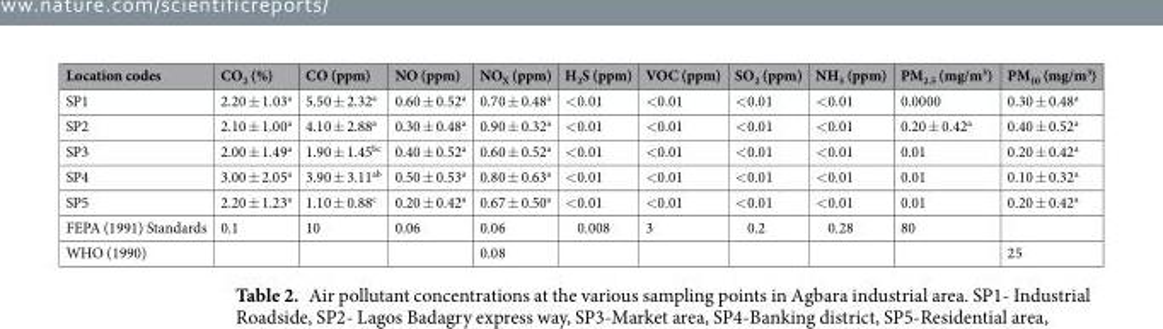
<table><thead><tr><td>Location codes</td><td>CO<sub>2</sub> (%)</td><td>CO (ppm)</td><td>NO (ppm)</td><td>NO<sub>X</sub> (ppm)</td><td>H<sub>2</sub>S (ppm)</td><td>VOC (ppm)</td><td>SO<sub>2</sub> (ppm)</td><td>NH<sub>3</sub> (ppm)</td><td>PM<sub>2.5</sub> (mg/m<sup>3</sup>)</td><td>PM<sub>10</sub> (mg/m<sup>3</sup>)</td></tr></thead><tbody><tr><td>SP1</td><td>2.20 ± 1.03<sup>a</sup></td><td>5.50 ± 2.32<sup>a</sup></td><td>0.60 ± 0.52<sup>a</sup></td><td>0.70 ± 0.48<sup>a</sup></td><td>&lt;0.01</td><td>&lt;0.01</td><td>&lt;0.01</td><td>&lt;0.01</td><td>0.0000</td><td>0.30 ± 0.48<sup>a</sup></td></tr><tr><td>SP2</td><td>2.10 ± 1.00<sup>a</sup></td><td>4.10 ± 2.88<sup>a</sup></td><td>0.30 ± 0.48<sup>a</sup></td><td>0.90 ± 0.32<sup>a</sup></td><td>&lt;0.01</td><td>&lt;0.01</td><td>&lt;0.01</td><td>&lt;0.01</td><td>0.20 ± 0.42<sup>a</sup></td><td>0.40 ± 0.52<sup>a</sup></td></tr><tr><td>SP3</td><td>2.00 ± 1.49<sup>a</sup></td><td>1.90 ± 1.45<sup>bc</sup></td><td>0.40 ± 0.52<sup>a</sup></td><td>0.60 ± 0.52<sup>a</sup></td><td>&lt;0.01</td><td>&lt;0.01</td><td>&lt;0.01</td><td>&lt;0.01</td><td>0.01</td><td>0.20 ± 0.42<sup>a</sup></td></tr><tr><td>SP4</td><td>3.00 ± 2.05<sup>a</sup></td><td>3.90 ± 3.11<sup>ab</sup></td><td>0.50 ± 0.53<sup>a</sup></td><td>0.80 ± 0.63<sup>a</sup></td><td>&lt;0.01</td><td>&lt;0.01</td><td>&lt;0.01</td><td>&lt;0.01</td><td>0.01</td><td>0.10 ± 0.32<sup>a</sup></td></tr><tr><td>SP5</td><td>2.20 ± 1.23<sup>a</sup></td><td>1.10 ± 0.88<sup>c</sup></td><td>0.20 ± 0.42<sup>a</sup></td><td>0.67 ± 0.50<sup>a</sup></td><td>&lt;0.01</td><td>&lt;0.01</td><td>&lt;0.01</td><td>&lt;0.01</td><td>0.01</td><td>0.20 ± 0.42<sup>a</sup></td></tr><tr><td>FEPA (1991) Standards</td><td>0.1</td><td>10</td><td>0.06</td><td>0.06</td><td>0.008</td><td>3</td><td>0.2</td><td>0.28</td><td>80</td><td></td></tr><tr><td>WHO (1990)</td><td></td><td></td><td></td><td>0.08</td><td></td><td></td><td></td><td></td><td></td><td>25</td></tr></tbody></table>